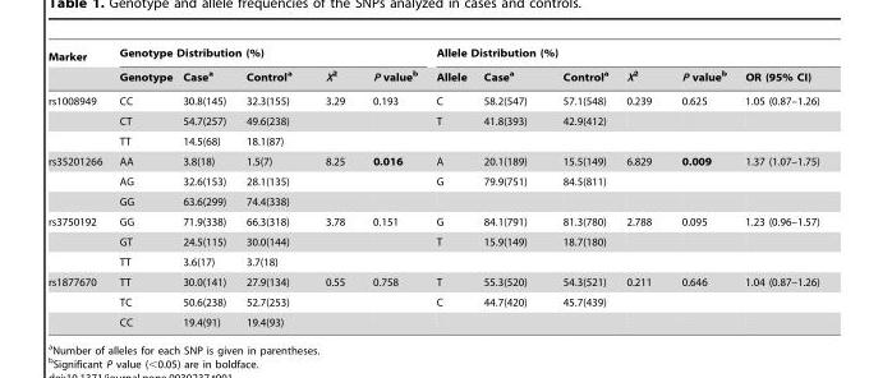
<table><thead><tr><td rowspan="2">Marker</td><td colspan="5">Genotype Distribution (%)</td><td colspan="6">Allele Distribution (%)</td></tr><tr><td>Genotype</td><td>Case<sup>a</sup></td><td>Control<sup>a</sup></td><td>X<sup>2</sup></td><td>P value<sup>b</sup></td><td>Allele</td><td>Case<sup>a</sup></td><td>Control<sup>a</sup></td><td>X<sup>2</sup></td><td>P value<sup>b</sup></td><td>OR (95% CI)</td></tr></thead><tbody><tr><td rowspan="3">rs1008949</td><td>CC</td><td>30.8(145)</td><td>32.3(155)</td><td>3.29</td><td>0.193</td><td>C</td><td>58.2(547)</td><td>57.1(548)</td><td>0.239</td><td>0.625</td><td>1.05 (0.87–1.26)</td></tr><tr><td>CT</td><td>54.7(257)</td><td>49.6(238)</td><td></td><td></td><td>T</td><td>41.8(393)</td><td>42.9(412)</td><td></td><td></td><td></td></tr><tr><td>TT</td><td>14.5(68)</td><td>18.1(87)</td><td></td><td></td><td></td><td></td><td></td><td></td><td></td><td></td></tr><tr><td rowspan="3">rs35201266</td><td>AA</td><td>3.8(18)</td><td>1.5(7)</td><td>8.25</td><td>0.016</td><td>A</td><td>20.1(189)</td><td>15.5(149)</td><td>6.829</td><td>0.009</td><td>1.37 (1.07–1.75)</td></tr><tr><td>AG</td><td>32.6(153)</td><td>28.1(135)</td><td></td><td></td><td>G</td><td>79.9(751)</td><td>84.5(811)</td><td></td><td></td><td></td></tr><tr><td>GG</td><td>63.6(299)</td><td>74.4(338)</td><td></td><td></td><td></td><td></td><td></td><td></td><td></td><td></td></tr><tr><td rowspan="3">rs3750192</td><td>GG</td><td>71.9(338)</td><td>66.3(318)</td><td>3.78</td><td>0.151</td><td>G</td><td>84.1(791)</td><td>81.3(780)</td><td>2.788</td><td>0.095</td><td>1.23 (0.96–1.57)</td></tr><tr><td>GT</td><td>24.5(115)</td><td>30.0(144)</td><td></td><td></td><td>T</td><td>15.9(149)</td><td>18.7(180)</td><td></td><td></td><td></td></tr><tr><td>TT</td><td>3.6(17)</td><td>3.7(18)</td><td></td><td></td><td></td><td></td><td></td><td></td><td></td><td></td></tr><tr><td rowspan="3">rs1877670</td><td>TT</td><td>30.0(141)</td><td>27.9(134)</td><td>0.55</td><td>0.758</td><td>T</td><td>55.3(520)</td><td>54.3(521)</td><td>0.211</td><td>0.646</td><td>1.04 (0.87–1.26)</td></tr><tr><td>TC</td><td>50.6(238)</td><td>52.7(253)</td><td></td><td></td><td>C</td><td>44.7(420)</td><td>45.7(439)</td><td></td><td></td><td></td></tr><tr><td>CC</td><td>19.4(91)</td><td>19.4(93)</td><td></td><td></td><td></td><td></td><td></td><td></td><td></td><td></td></tr></tbody></table>